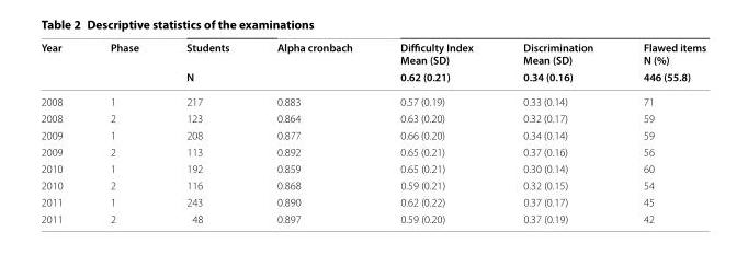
<table><thead><tr><td rowspan="2">Year</td><td rowspan="2">Phase</td><td rowspan="2">Students N</td><td rowspan="2">Alpha cronbach</td><td rowspan="2">Difficulty Index Mean (SD) 0.62 (0.21)</td><td rowspan="2">Discrimination Mean (SD) 0.34 (0.16)</td><td rowspan="2">Flawed items N (%) 446 (55.8)</td></tr><tr></tr></thead><tbody><tr><td>2008</td><td>1</td><td>217</td><td>0.883</td><td>0.57 (0.19)</td><td>0.33 (0.14)</td><td>71</td></tr><tr><td>2008</td><td>2</td><td>123</td><td>0.864</td><td>0.63 (0.20)</td><td>0.32 (0.17)</td><td>59</td></tr><tr><td>2009</td><td>1</td><td>208</td><td>0.877</td><td>0.66 (0.20)</td><td>0.34 (0.14)</td><td>59</td></tr><tr><td>2009</td><td>2</td><td>113</td><td>0.892</td><td>0.65 (0.21)</td><td>0.37 (0.16)</td><td>56</td></tr><tr><td>2010</td><td>1</td><td>192</td><td>0.859</td><td>0.65 (0.21)</td><td>0.30 (0.14)</td><td>60</td></tr><tr><td>2010</td><td>2</td><td>116</td><td>0.868</td><td>0.59 (0.21)</td><td>0.32 (0.15)</td><td>54</td></tr><tr><td>2011</td><td>1</td><td>243</td><td>0.890</td><td>0.62 (0.22)</td><td>0.37 (0.17)</td><td>45</td></tr><tr><td>2011</td><td>2</td><td>48</td><td>0.897</td><td>0.59 (0.20)</td><td>0.37 (0.19)</td><td>42</td></tr></tbody></table>